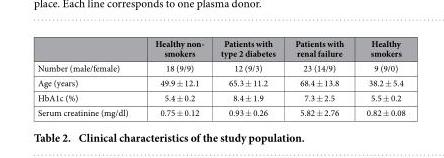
<table><thead><tr><td></td><td>Healthy non- smokers</td><td>Patients with type 2 diabetes</td><td>Patients with renal failure</td><td>Healthy smokers</td></tr></thead><tbody><tr><td>Number (male/female)</td><td>18 (9/9)</td><td>12 (9/3)</td><td>23 (14/9)</td><td>9 (9/0)</td></tr><tr><td>Age (years)</td><td>49.9 ± 12.1</td><td>65.3 ± 11.2</td><td>68.4 ± 13.8</td><td>38.2 ± 5.4</td></tr><tr><td>HbA1c (%)</td><td>5.4 ± 0.2</td><td>8.4 ± 1.9</td><td>7.3 ± 2.5</td><td>5.5 ± 0.2</td></tr><tr><td>Serum creatinine (mg/dl)</td><td>0.75 ± 0.12</td><td>0.93 ± 0.26</td><td>5.82 ± 2.76</td><td>0.82 ± 0.08</td></tr></tbody></table>